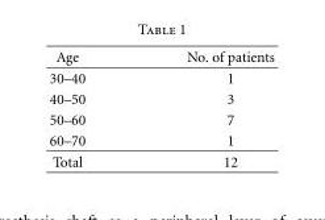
<table><thead><tr><td>Age</td><td>No. of patients</td></tr></thead><tbody><tr><td>30–40</td><td>1</td></tr><tr><td>40–50</td><td>3</td></tr><tr><td>50–60</td><td>7</td></tr><tr><td>60–70</td><td>1</td></tr><tr><td>Total</td><td>12</td></tr></tbody></table>